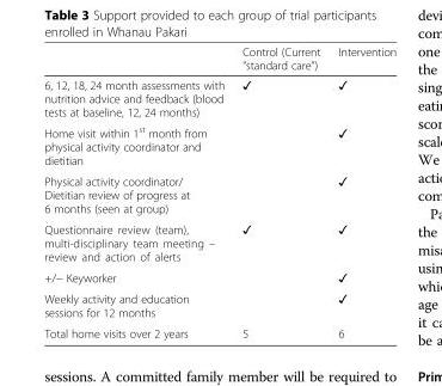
<table><thead><tr><td></td><td>Control (Current “standard care”)</td><td>Intervention</td></tr></thead><tbody><tr><td>6, 12, 18, 24 month assessments with nutrition advice and feedback (blood tests at baseline, 12, 24 months)</td><td>✓</td><td>✓</td></tr><tr><td>Home visit within 1<sup>st</sup> month from physical activity coordinator and dietitian</td><td></td><td>✓</td></tr><tr><td>Physical activity coordinator/ Dietitian review of progress at 6 months (seen at group)</td><td></td><td>✓</td></tr><tr><td>Questionnaire review (team), multi-disciplinary team meeting – review and action of alerts</td><td>✓</td><td>✓</td></tr><tr><td>+/− Keyworker</td><td></td><td>✓</td></tr><tr><td>Weekly activity and education sessions for 12 months</td><td></td><td>✓</td></tr><tr><td>Total home visits over 2 years</td><td>5</td><td>6</td></tr></tbody></table>